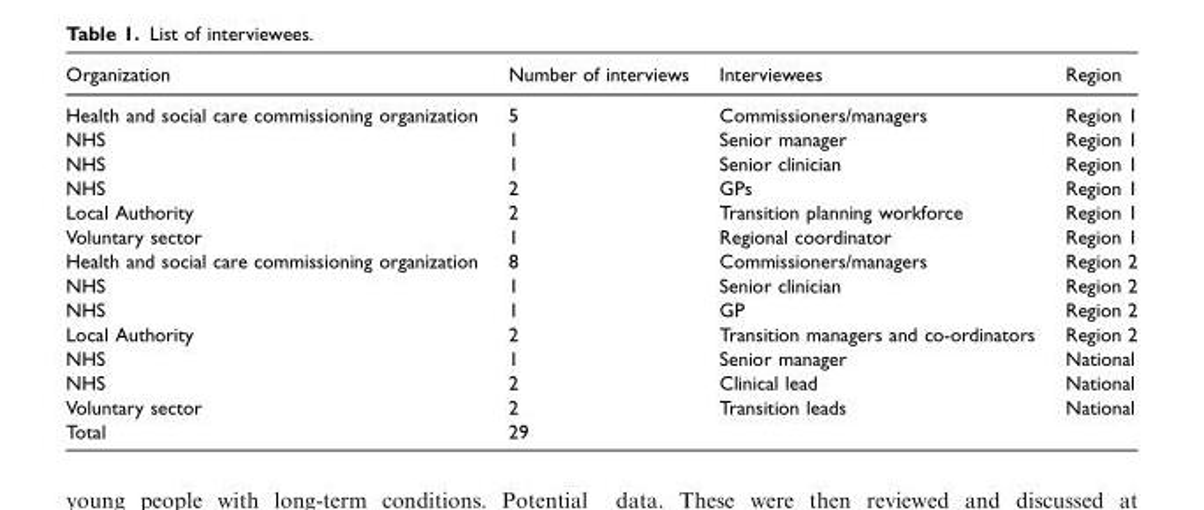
<table><thead><tr><td>Organization</td><td>Number of interviews</td><td>Interviewees</td><td>Region</td></tr></thead><tbody><tr><td>Health and social care commissioning organization</td><td>5</td><td>Commissioners/managers</td><td>Region 1</td></tr><tr><td>NHS</td><td>1</td><td>Senior manager</td><td>Region 1</td></tr><tr><td>NHS</td><td>1</td><td>Senior clinician</td><td>Region 1</td></tr><tr><td>NHS</td><td>2</td><td>GPs</td><td>Region 1</td></tr><tr><td>Local Authority</td><td>2</td><td>Transition planning workforce</td><td>Region 1</td></tr><tr><td>Voluntary sector</td><td>1</td><td>Regional coordinator</td><td>Region 1</td></tr><tr><td>Health and social care commissioning organization</td><td>8</td><td>Commissioners/managers</td><td>Region 2</td></tr><tr><td>NHS</td><td>1</td><td>Senior clinician</td><td>Region 2</td></tr><tr><td>NHS</td><td>1</td><td>GP</td><td>Region 2</td></tr><tr><td>Local Authority</td><td>2</td><td>Transition managers and co-ordinators</td><td>Region 2</td></tr><tr><td>NHS</td><td>1</td><td>Senior manager</td><td>National</td></tr><tr><td>NHS</td><td>2</td><td>Clinical lead</td><td>National</td></tr><tr><td>Voluntary sector</td><td>2</td><td>Transition leads</td><td>National</td></tr><tr><td>Total</td><td>29</td><td></td><td></td></tr></tbody></table>